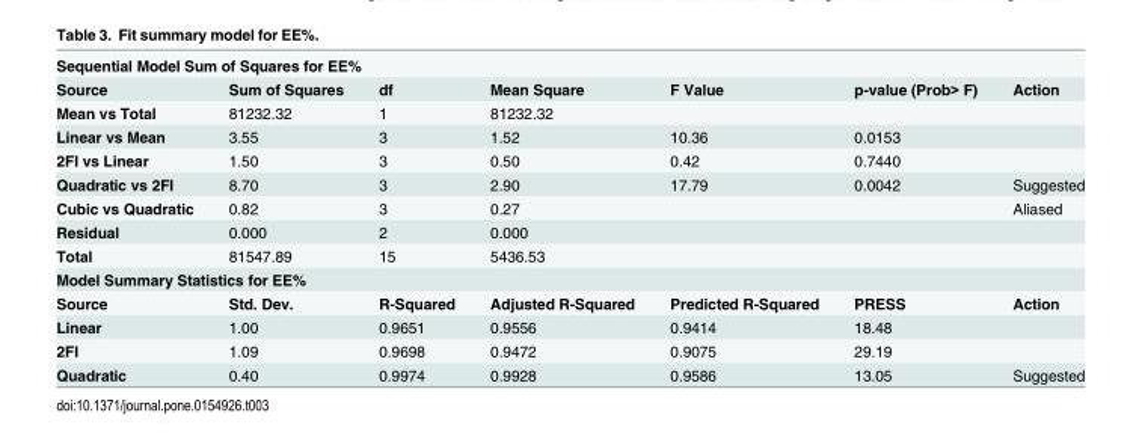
<table><tbody><tr><td colspan="7">Sequential Model Sum of Squares for EE%</td></tr><tr><td>Source</td><td>Sum of Squares</td><td>df</td><td>Mean Square</td><td>F Value</td><td>p-value (Prob&gt; F)</td><td>Action</td></tr><tr><td>Mean vs Total</td><td>81232.32</td><td>1</td><td>81232.32</td><td></td><td></td><td></td></tr><tr><td>Linear vs Mean</td><td>3.55</td><td>3</td><td>1.52</td><td>10.36</td><td>0.0153</td><td></td></tr><tr><td>2FI vs Linear</td><td>1.50</td><td>3</td><td>0.50</td><td>0.42</td><td>0.7440</td><td></td></tr><tr><td>Quadratic vs 2FI</td><td>8.70</td><td>3</td><td>2.90</td><td>17.79</td><td>0.0042</td><td>Suggested</td></tr><tr><td>Cubic vs Quadratic</td><td>0.82</td><td>3</td><td>0.27</td><td></td><td></td><td>Aliased</td></tr><tr><td>Residual</td><td>0.000</td><td>2</td><td>0.000</td><td></td><td></td><td></td></tr><tr><td>Total</td><td>81547.89</td><td>15</td><td>5436.53</td><td></td><td></td><td></td></tr><tr><td colspan="7">Model Summary Statistics for EE%</td></tr><tr><td>Source</td><td>Std. Dev.</td><td>R-Squared</td><td>Adjusted R-Squared</td><td>Predicted R-Squared</td><td>PRESS</td><td>Action</td></tr><tr><td>Linear</td><td>1.00</td><td>0.9651</td><td>0.9556</td><td>0.9414</td><td>18.48</td><td></td></tr><tr><td>2FI</td><td>1.09</td><td>0.9698</td><td>0.9472</td><td>0.9075</td><td>29.19</td><td></td></tr><tr><td>Quadratic</td><td>0.40</td><td>0.9974</td><td>0.9928</td><td>0.9586</td><td>13.05</td><td>Suggested</td></tr></tbody></table>